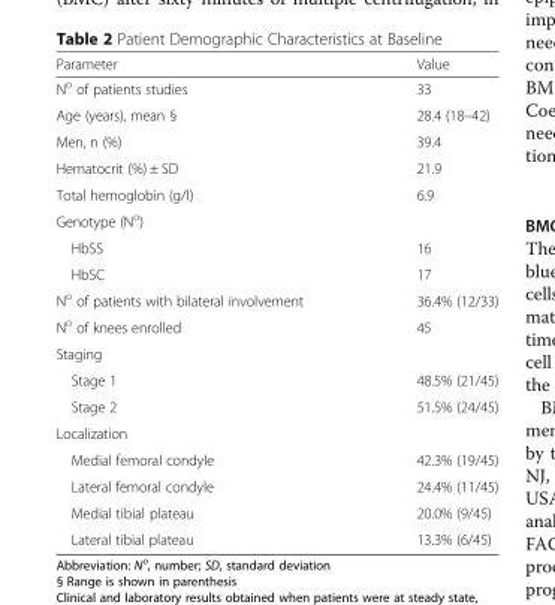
<table><thead><tr><td>Parameter</td><td>Value</td></tr></thead><tbody><tr><td>N<sup>o</sup> of patients studies</td><td>33</td></tr><tr><td>Age (years), mean §</td><td>28.4 (18–42)</td></tr><tr><td>Men, n (%)</td><td>39.4</td></tr><tr><td>Hematocrit (%) ± SD</td><td>21.9</td></tr><tr><td>Total hemoglobin (g/l)</td><td>6.9</td></tr><tr><td colspan="2">Genotype (N<sup>o</sup>)</td></tr><tr><td>HbSS</td><td>16</td></tr><tr><td>HbSC</td><td>17</td></tr><tr><td>N<sup>o</sup> of patients with bilateral involvement</td><td>36.4% (12/33)</td></tr><tr><td>N<sup>o</sup> of knees enrolled</td><td>45</td></tr><tr><td colspan="2">Staging</td></tr><tr><td>Stage 1</td><td>48.5% (21/45)</td></tr><tr><td>Stage 2</td><td>51.5% (24/45)</td></tr><tr><td colspan="2">Localization</td></tr><tr><td>Medial femoral condyle</td><td>42.3% (19/45)</td></tr><tr><td>Lateral femoral condyle</td><td>24.4% (11/45)</td></tr><tr><td>Medial tibial plateau</td><td>20.0% (9/45)</td></tr><tr><td>Lateral tibial plateau</td><td>13.3% (6/45)</td></tr></tbody></table>